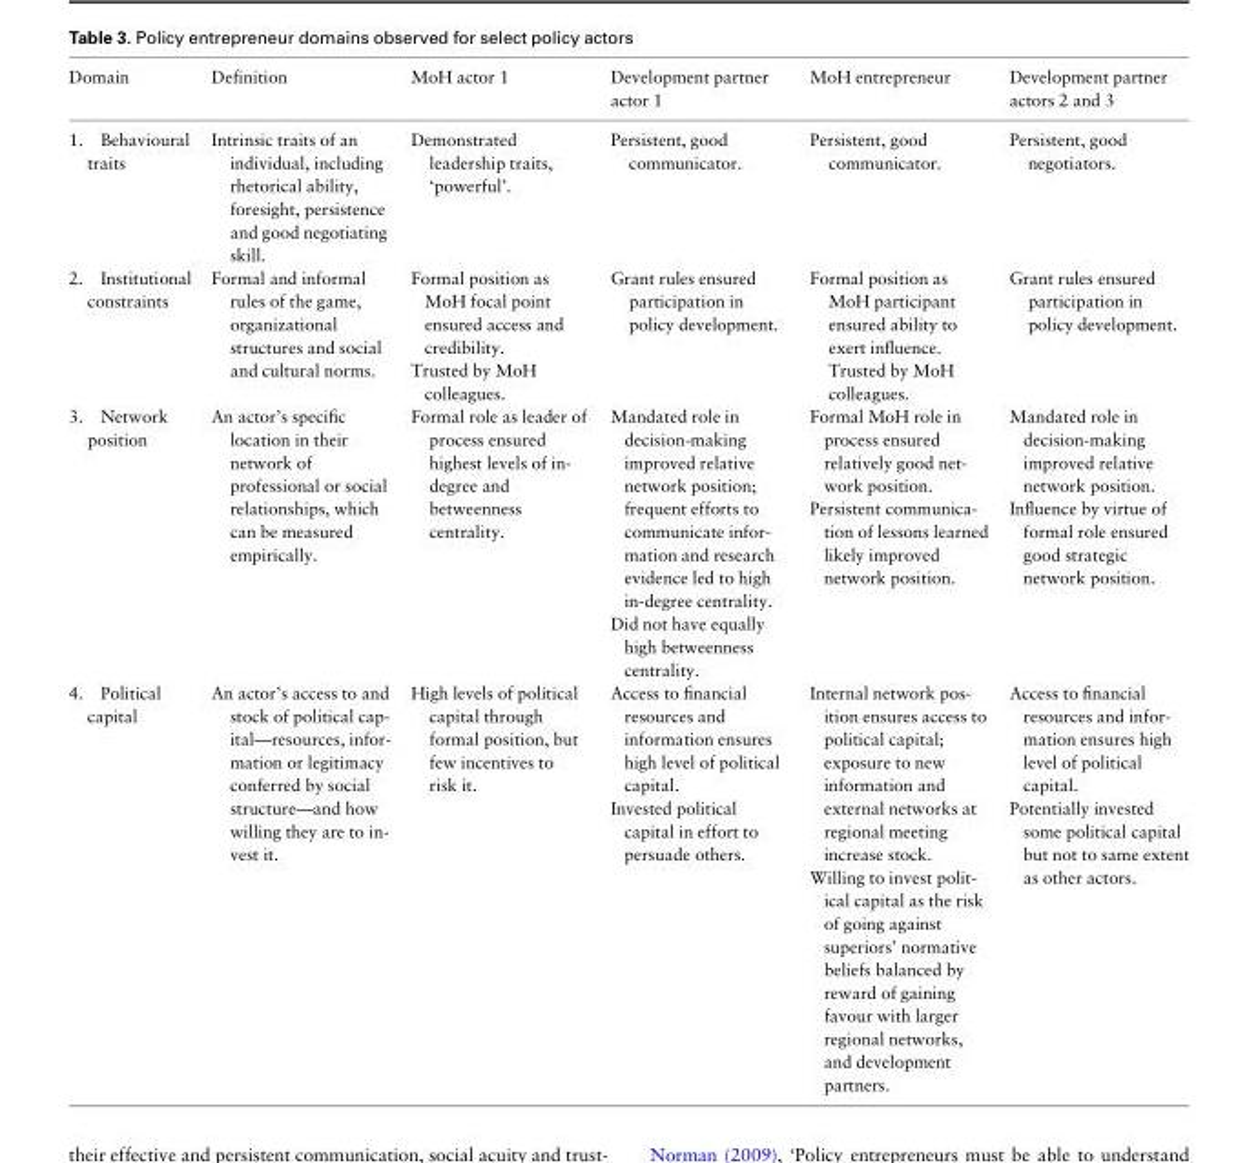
<table><thead><tr><td>Domain</td><td>Definition</td><td>MoH actor 1</td><td>Development partner actor 1</td><td>MoH entrepreneur</td><td>Development partner actors 2 and 3</td></tr></thead><tbody><tr><td>1. Behavioural traits</td><td>Intrinsic traits of an individual, including rhetorical ability, foresight, persistence and good negotiating skill.</td><td>Demonstrated leadership traits, ‘powerful’.</td><td>Persistent, good communicator.</td><td>Persistent, good communicator.</td><td>Persistent, good negotiators.</td></tr><tr><td>2. Institutional constraints</td><td>Formal and informal rules of the game, organizational structures and social and cultural norms.</td><td>Formal position as MoH focal point ensured access and credibility. Trusted by MoH colleagues.</td><td>Grant rules ensured participation in policy development.</td><td>Formal position as MoH participant ensured ability to exert influence. Trusted by MoH colleagues.</td><td>Grant rules ensured participation in policy development.</td></tr><tr><td>3. Network position</td><td>An actor’s specific location in their network of professional or social relationships, which can be measured empirically.</td><td>Formal role as leader of process ensured highest levels of in- degree and betweenness centrality.</td><td>Mandated role in decision-making improved relative network position; frequent efforts to communicate infor- mation and research evidence led to high in-degree centrality. Did not have equally high betweenness centrality.</td><td>Formal MoH role in process ensured relatively good net- work position. Persistent communica- tion of lessons learned likely improved network position.</td><td>Mandated role in decision-making improved relative network position. Influence by virtue of formal role ensured good strategic network position.</td></tr><tr><td>4. Political capital</td><td>An actor’s access to and stock of political cap- ital—resources, infor- mation or legitimacy conferred by social structure—and how willing they are to in- vest it.</td><td>High levels of political capital through formal position, but few incentives to risk it.</td><td>Access to financial resources and information ensures high level of political capital. Invested political capital in effort to persuade others.</td><td>Internal network pos- ition ensures access to political capital; exposure to new information and external networks at regional meeting increase stock. Willing to invest polit- ical capital as the risk of going against superiors’ normative beliefs balanced by reward of gaining favour with larger regional networks, and development partners.</td><td>Access to financial resources and infor- mation ensures high level of political capital. Potentially invested some political capital but not to same extent as other actors.</td></tr></tbody></table>